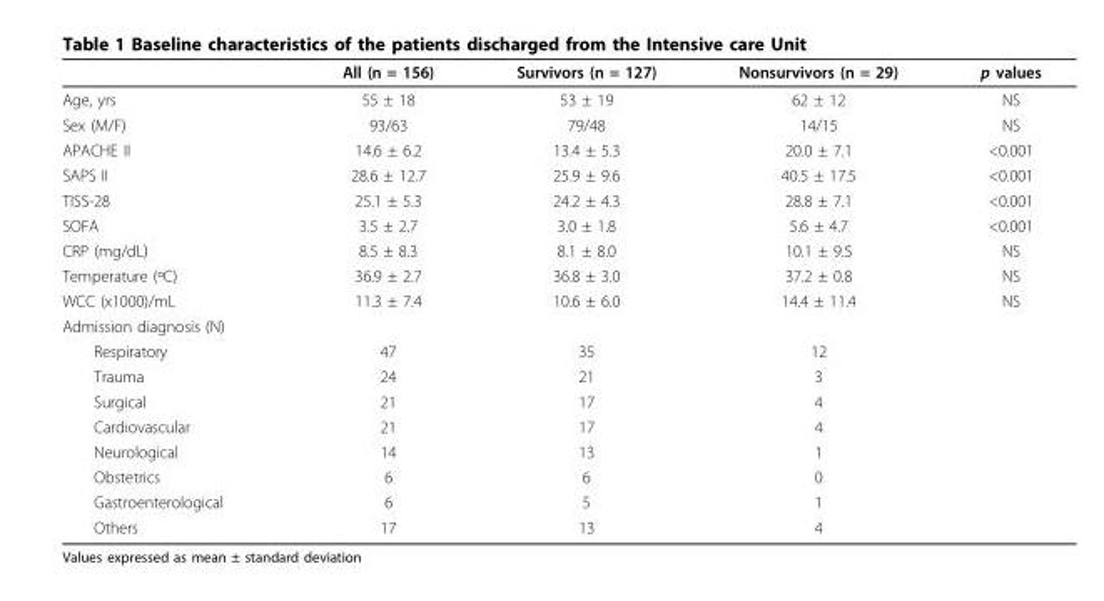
<table><thead><tr><td></td><td>All (n = 156)</td><td>Survivors (n = 127)</td><td>Nonsurvivors (n = 29)</td><td>p values</td></tr></thead><tbody><tr><td>Age, yrs</td><td>55 ± 18</td><td>53 ± 19</td><td>62 ± 12</td><td>NS</td></tr><tr><td>Sex (M/F)</td><td>93/63</td><td>79/48</td><td>14/15</td><td>NS</td></tr><tr><td>APACHE II</td><td>14.6 ± 6.2</td><td>13.4 ± 5.3</td><td>20.0 ± 7.1</td><td>&lt;0.001</td></tr><tr><td>SAPS II</td><td>28.6 ± 12.7</td><td>25.9 ± 9.6</td><td>40.5 ± 17.5</td><td>&lt;0.001</td></tr><tr><td>TISS-28</td><td>25.1 ± 5.3</td><td>24.2 ± 4.3</td><td>28.8 ± 7.1</td><td>&lt;0.001</td></tr><tr><td>SOFA</td><td>3.5 ± 2.7</td><td>3.0 ± 1.8</td><td>5.6 ± 4.7</td><td>&lt;0.001</td></tr><tr><td>CRP (mg/dL)</td><td>8.5 ± 8.3</td><td>8.1 ± 8.0</td><td>10.1 ± 9.5</td><td>NS</td></tr><tr><td>Temperature (ºC)</td><td>36.9 ± 2.7</td><td>36.8 ± 3.0</td><td>37.2 ± 0.8</td><td>NS</td></tr><tr><td>WCC (x1000)/mL</td><td>11.3 ± 7.4</td><td>10.6 ± 6.0</td><td>14.4 ± 11.4</td><td>NS</td></tr><tr><td colspan="5">Admission diagnosis (N)</td></tr><tr><td>Respiratory</td><td>47</td><td>35</td><td>12</td><td></td></tr><tr><td>Trauma</td><td>24</td><td>21</td><td>3</td><td></td></tr><tr><td>Surgical</td><td>21</td><td>17</td><td>4</td><td></td></tr><tr><td>Cardiovascular</td><td>21</td><td>17</td><td>4</td><td></td></tr><tr><td>Neurological</td><td>14</td><td>13</td><td>1</td><td></td></tr><tr><td>Obstetrics</td><td>6</td><td>6</td><td>0</td><td></td></tr><tr><td>Gastroenterological</td><td>6</td><td>5</td><td>1</td><td></td></tr><tr><td>Others</td><td>17</td><td>13</td><td>4</td><td></td></tr></tbody></table>